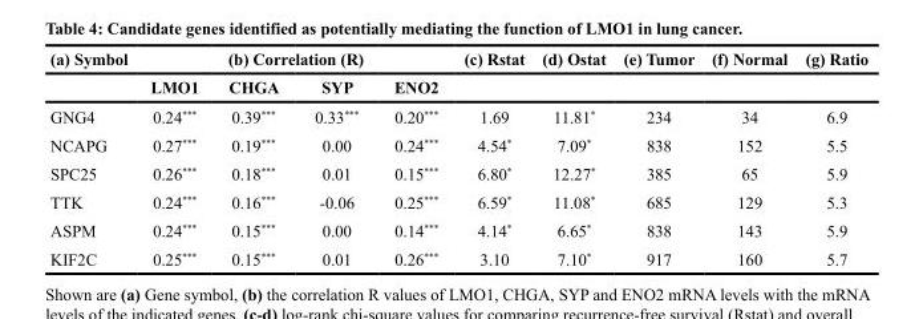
<table><thead><tr><td rowspan="2">(a) Symbol</td><td colspan="4">(b) Correlation (R)</td><td rowspan="2">(c) Rstat</td><td rowspan="2">(d) Ostat</td><td rowspan="2">(e) Tumor</td><td rowspan="2">(f) Normal</td><td rowspan="2">(g) Ratio</td></tr><tr><td>LMO1</td><td>CHGA</td><td>SYP</td><td>ENO2</td></tr></thead><tbody><tr><td>GNG4</td><td>0.24***</td><td>0.39***</td><td>0.33***</td><td>0.20***</td><td>1.69</td><td>11.81*</td><td>234</td><td>34</td><td>6.9</td></tr><tr><td>NCAPG</td><td>0.27***</td><td>0.19***</td><td>0.00</td><td>0.24***</td><td>4.54*</td><td>7.09*</td><td>838</td><td>152</td><td>5.5</td></tr><tr><td>SPC25</td><td>0.26***</td><td>0.18***</td><td>0.01</td><td>0.15***</td><td>6.80*</td><td>12.27*</td><td>385</td><td>65</td><td>5.9</td></tr><tr><td>TTK</td><td>0.24***</td><td>0.16***</td><td>-0.06</td><td>0.25***</td><td>6.59*</td><td>11.08*</td><td>685</td><td>129</td><td>5.3</td></tr><tr><td>ASPM</td><td>0.24***</td><td>0.15***</td><td>0.00</td><td>0.14***</td><td>4.14*</td><td>6.65*</td><td>838</td><td>143</td><td>5.9</td></tr><tr><td>KIF2C</td><td>0.25***</td><td>0.15***</td><td>0.01</td><td>0.26***</td><td>3.10</td><td>7.10*</td><td>917</td><td>160</td><td>5.7</td></tr></tbody></table>